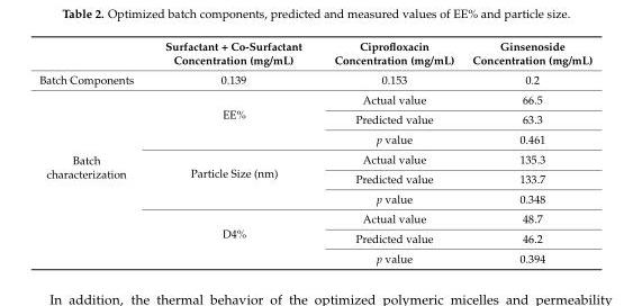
<table><thead><tr><td></td><td>Surfactant + Co-Surfactant Concentration (mg/mL)</td><td>Ciprofloxacin Concentration (mg/mL)</td><td>Ginsenoside Concentration (mg/mL)</td></tr></thead><tbody><tr><td>Batch Components</td><td>0.139</td><td>0.153</td><td>0.2</td></tr><tr><td rowspan="9">Batch characterization</td><td rowspan="3">EE%</td><td>Actual value</td><td>66.5</td></tr><tr><td>Predicted value</td><td>63.3</td></tr><tr><td>p value</td><td>0.461</td></tr><tr><td rowspan="3">Particle Size (nm)</td><td>Actual value</td><td>135.3</td></tr><tr><td>Predicted value</td><td>133.7</td></tr><tr><td>p value</td><td>0.348</td></tr><tr><td rowspan="3">D4%</td><td>Actual value</td><td>48.7</td></tr><tr><td>Predicted value</td><td>46.2</td></tr><tr><td>p value</td><td>0.394</td></tr></tbody></table>